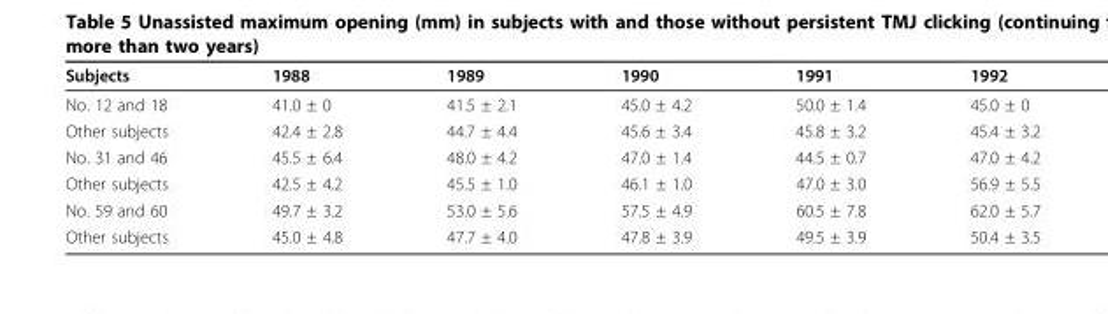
<table><thead><tr><td>Subjects</td><td>1988</td><td>1989</td><td>1990</td><td>1991</td><td>1992</td></tr></thead><tbody><tr><td>No. 12 and 18</td><td>41.0 ± 0</td><td>41.5 ± 2.1</td><td>45.0 ± 4.2</td><td>50.0 ± 1.4</td><td>45.0 ± 0</td></tr><tr><td>Other subjects</td><td>42.4 ± 2.8</td><td>44.7 ± 4.4</td><td>45.6 ± 3.4</td><td>45.8 ± 3.2</td><td>45.4 ± 3.2</td></tr><tr><td>No. 31 and 46</td><td>45.5 ± 6.4</td><td>48.0 ± 4.2</td><td>47.0 ± 1.4</td><td>44.5 ± 0.7</td><td>47.0 ± 4.2</td></tr><tr><td>Other subjects</td><td>42.5 ± 4.2</td><td>45.5 ± 1.0</td><td>46.1 ± 1.0</td><td>47.0 ± 3.0</td><td>56.9 ± 5.5</td></tr><tr><td>No. 59 and 60</td><td>49.7 ± 3.2</td><td>53.0 ± 5.6</td><td>57.5 ± 4.9</td><td>60.5 ± 7.8</td><td>62.0 ± 5.7</td></tr><tr><td>Other subjects</td><td>45.0 ± 4.8</td><td>47.7 ± 4.0</td><td>47.8 ± 3.9</td><td>49.5 ± 3.9</td><td>50.4 ± 3.5</td></tr></tbody></table>